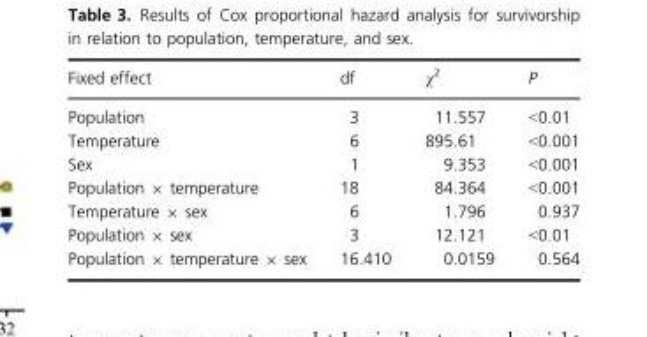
<table><thead><tr><td>Fixed effect</td><td>df</td><td>χ<sup>2</sup></td><td>P</td></tr></thead><tbody><tr><td>Population</td><td>3</td><td>11.557</td><td>&lt;0.01</td></tr><tr><td>Temperature</td><td>6</td><td>895.61</td><td>&lt;0.001</td></tr><tr><td>Sex</td><td>1</td><td>9.353</td><td>&lt;0.001</td></tr><tr><td>Population × temperature</td><td>18</td><td>84.364</td><td>&lt;0.001</td></tr><tr><td>Temperature × sex</td><td>6</td><td>1.796</td><td>0.937</td></tr><tr><td>Population × sex</td><td>3</td><td>12.121</td><td>&lt;0.01</td></tr><tr><td>Population × temperature × sex</td><td>16.410</td><td>0.0159</td><td>0.564</td></tr></tbody></table>